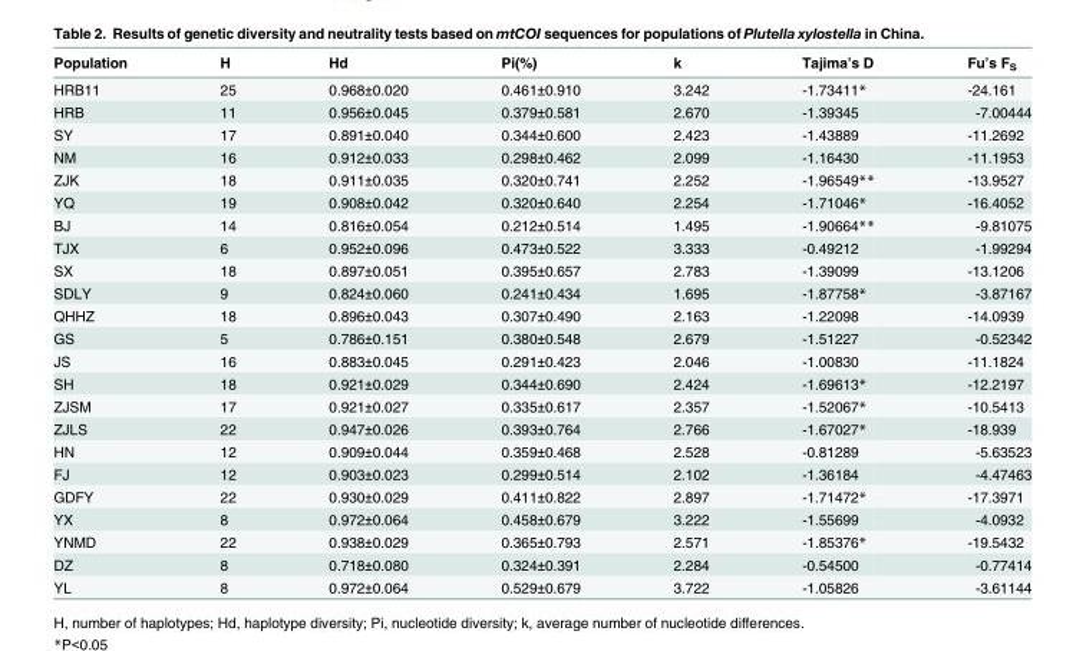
<table><thead><tr><td>Population</td><td>H</td><td>Hd</td><td>Pi(%)</td><td>k</td><td>Tajima’s D</td><td>Fu’s F<sub>S</sub></td></tr></thead><tbody><tr><td>HRB11</td><td>25</td><td>0.968±0.020</td><td>0.461±0.910</td><td>3.242</td><td>-1.73411*</td><td>-24.161</td></tr><tr><td>HRB</td><td>11</td><td>0.956±0.045</td><td>0.379±0.581</td><td>2.670</td><td>-1.39345</td><td>-7.00444</td></tr><tr><td>SY</td><td>17</td><td>0.891±0.040</td><td>0.344±0.600</td><td>2.423</td><td>-1.43889</td><td>-11.2692</td></tr><tr><td>NM</td><td>16</td><td>0.912±0.033</td><td>0.298±0.462</td><td>2.099</td><td>-1.16430</td><td>-11.1953</td></tr><tr><td>ZJK</td><td>18</td><td>0.911±0.035</td><td>0.320±0.741</td><td>2.252</td><td>-1.96549**</td><td>-13.9527</td></tr><tr><td>YQ</td><td>19</td><td>0.908±0.042</td><td>0.320±0.640</td><td>2.254</td><td>-1.71046*</td><td>-16.4052</td></tr><tr><td>BJ</td><td>14</td><td>0.816±0.054</td><td>0.212±0.514</td><td>1.495</td><td>-1.90664**</td><td>-9.81075</td></tr><tr><td>TJX</td><td>6</td><td>0.952±0.096</td><td>0.473±0.522</td><td>3.333</td><td>-0.49212</td><td>-1.99294</td></tr><tr><td>SX</td><td>18</td><td>0.897±0.051</td><td>0.395±0.657</td><td>2.783</td><td>-1.39099</td><td>-13.1206</td></tr><tr><td>SDLY</td><td>9</td><td>0.824±0.060</td><td>0.241±0.434</td><td>1.695</td><td>-1.87758*</td><td>-3.87167</td></tr><tr><td>QHHZ</td><td>18</td><td>0.896±0.043</td><td>0.307±0.490</td><td>2.163</td><td>-1.22098</td><td>-14.0939</td></tr><tr><td>GS</td><td>5</td><td>0.786±0.151</td><td>0.380±0.548</td><td>2.679</td><td>-1.51227</td><td>-0.52342</td></tr><tr><td>JS</td><td>16</td><td>0.883±0.045</td><td>0.291±0.423</td><td>2.046</td><td>-1.00830</td><td>-11.1824</td></tr><tr><td>SH</td><td>18</td><td>0.921±0.029</td><td>0.344±0.690</td><td>2.424</td><td>-1.69613*</td><td>-12.2197</td></tr><tr><td>ZJSM</td><td>17</td><td>0.921±0.027</td><td>0.335±0.617</td><td>2.357</td><td>-1.52067*</td><td>-10.5413</td></tr><tr><td>ZJLS</td><td>22</td><td>0.947±0.026</td><td>0.393±0.764</td><td>2.766</td><td>-1.67027*</td><td>-18.939</td></tr><tr><td>HN</td><td>12</td><td>0.909±0.044</td><td>0.359±0.468</td><td>2.528</td><td>-0.81289</td><td>-5.63523</td></tr><tr><td>FJ</td><td>12</td><td>0.903±0.023</td><td>0.299±0.514</td><td>2.102</td><td>-1.36184</td><td>-4.47463</td></tr><tr><td>GDFY</td><td>22</td><td>0.930±0.029</td><td>0.411±0.822</td><td>2.897</td><td>-1.71472*</td><td>-17.3971</td></tr><tr><td>YX</td><td>8</td><td>0.972±0.064</td><td>0.458±0.679</td><td>3.222</td><td>-1.55699</td><td>-4.0932</td></tr><tr><td>YNMD</td><td>22</td><td>0.938±0.029</td><td>0.365±0.793</td><td>2.571</td><td>-1.85376*</td><td>-19.5432</td></tr><tr><td>DZ</td><td>8</td><td>0.718±0.080</td><td>0.324±0.391</td><td>2.284</td><td>-0.54500</td><td>-0.77414</td></tr><tr><td>YL</td><td>8</td><td>0.972±0.064</td><td>0.529±0.679</td><td>3.722</td><td>-1.05826</td><td>-3.61144</td></tr></tbody></table>